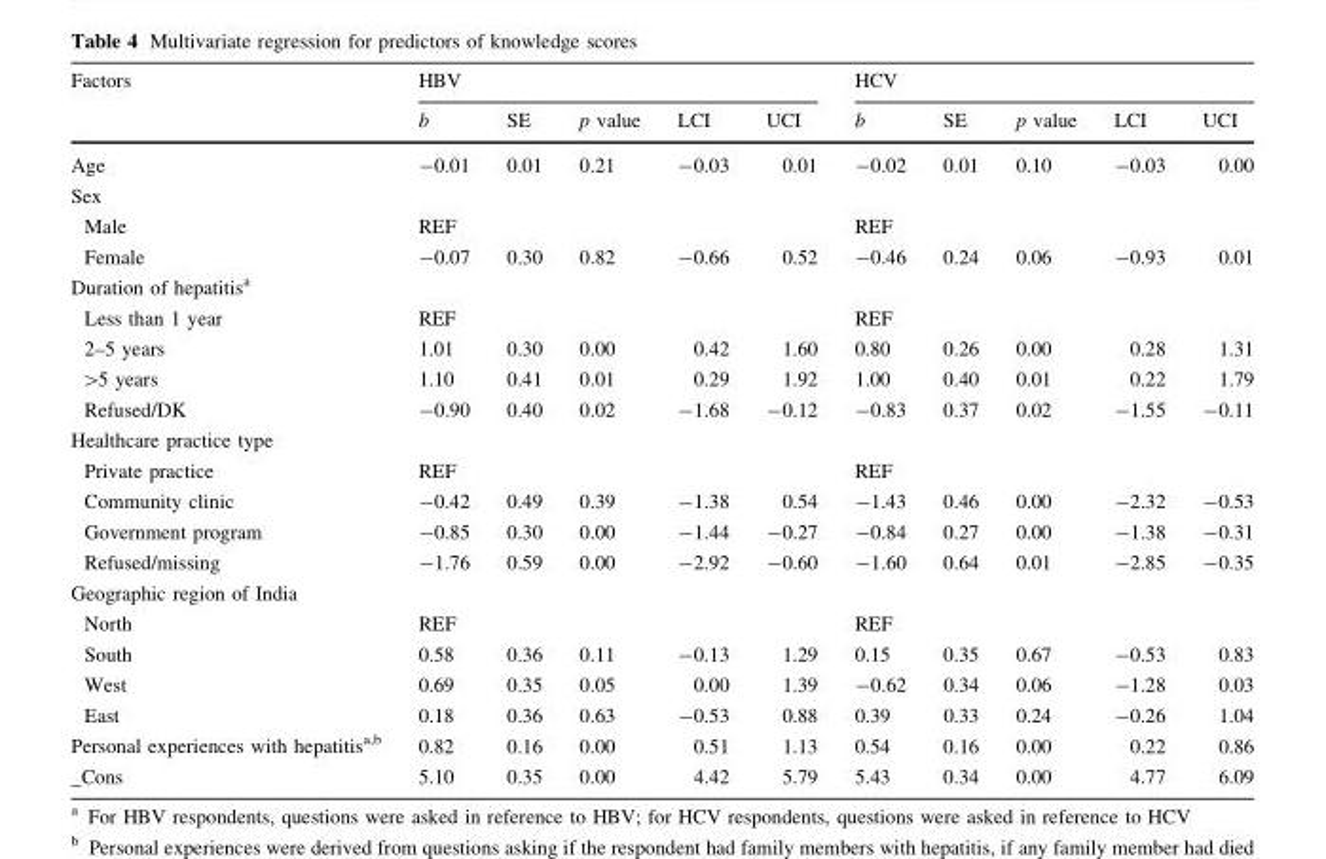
<table><thead><tr><td rowspan="2">Factors</td><td colspan="5">HBV</td><td colspan="5">HCV</td></tr><tr><td>b</td><td>SE</td><td>p value</td><td>LCI</td><td>UCI</td><td>b</td><td>SE</td><td>p value</td><td>LCI</td><td>UCI</td></tr></thead><tbody><tr><td>Age</td><td>-0.01</td><td>0.01</td><td>0.21</td><td>-0.03</td><td>0.01</td><td>-0.02</td><td>0.01</td><td>0.10</td><td>-0.03</td><td>0.00</td></tr><tr><td colspan="11">Sex</td></tr><tr><td>Male</td><td>REF</td><td></td><td></td><td></td><td></td><td>REF</td><td></td><td></td><td></td><td></td></tr><tr><td>Female</td><td>-0.07</td><td>0.30</td><td>0.82</td><td>-0.66</td><td>0.52</td><td>-0.46</td><td>0.24</td><td>0.06</td><td>-0.93</td><td>0.01</td></tr><tr><td colspan="11">Duration of hepatitis<sup>a</sup></td></tr><tr><td>Less than 1 year</td><td>REF</td><td></td><td></td><td></td><td></td><td>REF</td><td></td><td></td><td></td><td></td></tr><tr><td>2–5 years</td><td>1.01</td><td>0.30</td><td>0.00</td><td>0.42</td><td>1.60</td><td>0.80</td><td>0.26</td><td>0.00</td><td>0.28</td><td>1.31</td></tr><tr><td>&gt;5 years</td><td>1.10</td><td>0.41</td><td>0.01</td><td>0.29</td><td>1.92</td><td>1.00</td><td>0.40</td><td>0.01</td><td>0.22</td><td>1.79</td></tr><tr><td>Refused/DK</td><td>-0.90</td><td>0.40</td><td>0.02</td><td>-1.68</td><td>-0.12</td><td>-0.83</td><td>0.37</td><td>0.02</td><td>-1.55</td><td>-0.11</td></tr><tr><td colspan="11">Healthcare practice type</td></tr><tr><td>Private practice</td><td>REF</td><td></td><td></td><td></td><td></td><td>REF</td><td></td><td></td><td></td><td></td></tr><tr><td>Community clinic</td><td>-0.42</td><td>0.49</td><td>0.39</td><td>-1.38</td><td>0.54</td><td>-1.43</td><td>0.46</td><td>0.00</td><td>-2.32</td><td>-0.53</td></tr><tr><td>Government program</td><td>-0.85</td><td>0.30</td><td>0.00</td><td>-1.44</td><td>-0.27</td><td>-0.84</td><td>0.27</td><td>0.00</td><td>-1.38</td><td>-0.31</td></tr><tr><td>Refused/missing</td><td>-1.76</td><td>0.59</td><td>0.00</td><td>-2.92</td><td>-0.60</td><td>-1.60</td><td>0.64</td><td>0.01</td><td>-2.85</td><td>-0.35</td></tr><tr><td colspan="11">Geographic region of India</td></tr><tr><td>North</td><td>REF</td><td></td><td></td><td></td><td></td><td>REF</td><td></td><td></td><td></td><td></td></tr><tr><td>South</td><td>0.58</td><td>0.36</td><td>0.11</td><td>-0.13</td><td>1.29</td><td>0.15</td><td>0.35</td><td>0.67</td><td>-0.53</td><td>0.83</td></tr><tr><td>West</td><td>0.69</td><td>0.35</td><td>0.05</td><td>0.00</td><td>1.39</td><td>-0.62</td><td>0.34</td><td>0.06</td><td>-1.28</td><td>0.03</td></tr><tr><td>East</td><td>0.18</td><td>0.36</td><td>0.63</td><td>-0.53</td><td>0.88</td><td>0.39</td><td>0.33</td><td>0.24</td><td>-0.26</td><td>1.04</td></tr><tr><td>Personal experiences with hepatitis<sup>a,b</sup></td><td>0.82</td><td>0.16</td><td>0.00</td><td>0.51</td><td>1.13</td><td>0.54</td><td>0.16</td><td>0.00</td><td>0.22</td><td>0.86</td></tr><tr><td>_Cons</td><td>5.10</td><td>0.35</td><td>0.00</td><td>4.42</td><td>5.79</td><td>5.43</td><td>0.34</td><td>0.00</td><td>4.77</td><td>6.09</td></tr></tbody></table>